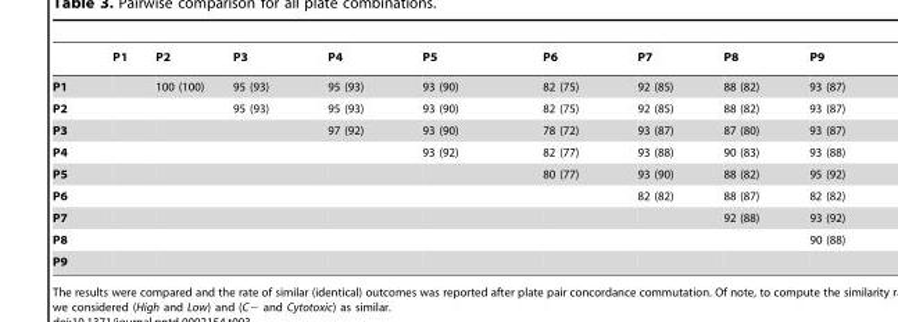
<table><thead><tr><td></td><td>P1</td><td>P2</td><td>P3</td><td>P4</td><td>P5</td><td>P6</td><td>P7</td><td>P8</td><td>P9</td></tr></thead><tbody><tr><td>P1</td><td></td><td>100 (100)</td><td>95 (93)</td><td>95 (93)</td><td>93 (90)</td><td>82 (75)</td><td>92 (85)</td><td>88 (82)</td><td>93 (87)</td></tr><tr><td>P2</td><td></td><td></td><td>95 (93)</td><td>95 (93)</td><td>93 (90)</td><td>82 (75)</td><td>92 (85)</td><td>88 (82)</td><td>93 (87)</td></tr><tr><td>P3</td><td></td><td></td><td></td><td>97 (92)</td><td>93 (90)</td><td>78 (72)</td><td>93 (87)</td><td>87 (80)</td><td>93 (87)</td></tr><tr><td>P4</td><td></td><td></td><td></td><td></td><td>93 (92)</td><td>82 (77)</td><td>93 (88)</td><td>90 (83)</td><td>93 (88)</td></tr><tr><td>P5</td><td></td><td></td><td></td><td></td><td></td><td>80 (77)</td><td>93 (90)</td><td>88 (82)</td><td>95 (92)</td></tr><tr><td>P6</td><td></td><td></td><td></td><td></td><td></td><td></td><td>82 (82)</td><td>88 (87)</td><td>82 (82)</td></tr><tr><td>P7</td><td></td><td></td><td></td><td></td><td></td><td></td><td></td><td>92 (88)</td><td>93 (92)</td></tr><tr><td>P8</td><td></td><td></td><td></td><td></td><td></td><td></td><td></td><td></td><td>90 (88)</td></tr><tr><td>P9</td><td></td><td></td><td></td><td></td><td></td><td></td><td></td><td></td><td></td></tr></tbody></table>